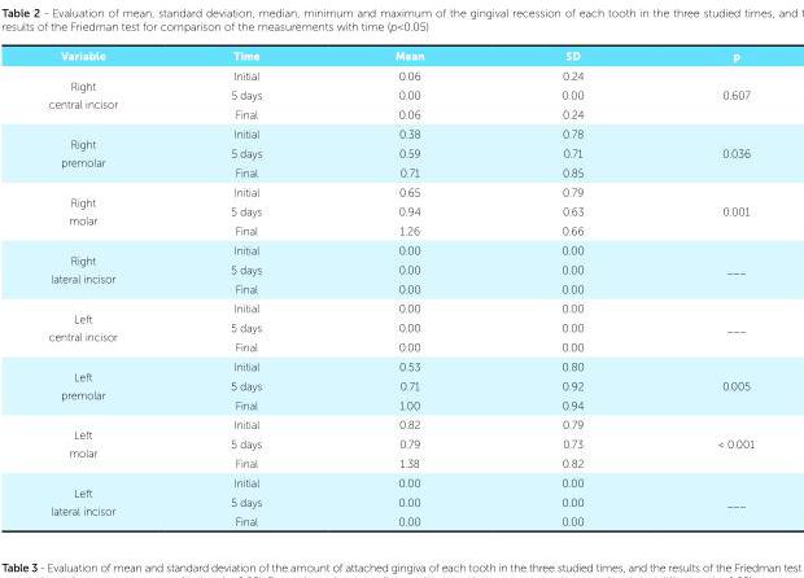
<table><tbody><tr><td>Variable</td><td>Time</td><td>Mean</td><td>SD</td><td>p</td></tr><tr><td rowspan="3">Right central incisor</td><td>Initial</td><td>0.06</td><td>0.24</td><td rowspan="3">0.607</td></tr><tr><td>5 days</td><td>0.00</td><td>0.00</td></tr><tr><td>Final</td><td>0.06</td><td>0.24</td></tr><tr><td rowspan="3">Right premolar</td><td>Initial</td><td>0.38</td><td>0.78</td><td rowspan="3">0.036</td></tr><tr><td>5 days</td><td>0.59</td><td>0.71</td></tr><tr><td>Final</td><td>0.71</td><td>0.85</td></tr><tr><td rowspan="3">Right molar</td><td>Initial</td><td>0.65</td><td>0.79</td><td rowspan="3">0.001</td></tr><tr><td>5 days</td><td>0.94</td><td>0.63</td></tr><tr><td>Final</td><td>1.26</td><td>0.66</td></tr><tr><td rowspan="3">Right lateral incisor</td><td>Initial</td><td>0.00</td><td>0.00</td><td rowspan="3">___</td></tr><tr><td>5 days</td><td>0.00</td><td>0.00</td></tr><tr><td>Final</td><td>0.00</td><td>0.00</td></tr><tr><td rowspan="3">Left central incisor</td><td>Initial</td><td>0.00</td><td>0.00</td><td rowspan="3">___</td></tr><tr><td>5 days</td><td>0.00</td><td>0.00</td></tr><tr><td>Final</td><td>0.00</td><td>0.00</td></tr><tr><td rowspan="3">Left premolar</td><td>Initial</td><td>0.53</td><td>0.80</td><td rowspan="3">0.005</td></tr><tr><td>5 days</td><td>0.71</td><td>0.92</td></tr><tr><td>Final</td><td>1.00</td><td>0.94</td></tr><tr><td rowspan="3">Left molar</td><td>Initial</td><td>0.82</td><td>0.79</td><td rowspan="3">&lt; 0.001</td></tr><tr><td>5 days</td><td>0.79</td><td>0.73</td></tr><tr><td>Final</td><td>1.38</td><td>0.82</td></tr><tr><td rowspan="3">Left lateral incisor</td><td>Initial</td><td>0.00</td><td>0.00</td><td rowspan="3">___</td></tr><tr><td>5 days</td><td>0.00</td><td>0.00</td></tr><tr><td>Final</td><td>0.00</td><td>0.00</td></tr></tbody></table>